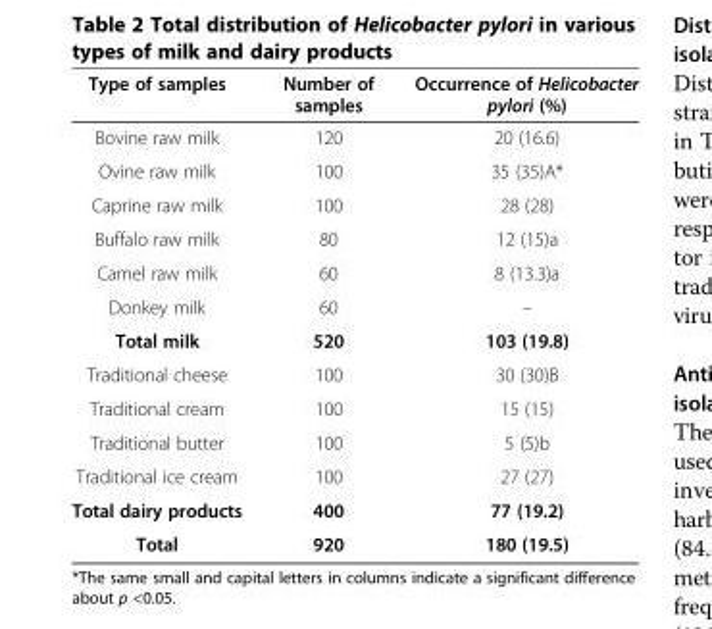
<table><thead><tr><td>Type of samples</td><td>Number of samples</td><td>Occurrence of Helicobacter pylori (%)</td></tr></thead><tbody><tr><td>Bovine raw milk</td><td>120</td><td>20 (16.6)</td></tr><tr><td>Ovine raw milk</td><td>100</td><td>35 (35)A*</td></tr><tr><td>Caprine raw milk</td><td>100</td><td>28 (28)</td></tr><tr><td>Buffalo raw milk</td><td>80</td><td>12 (15)a</td></tr><tr><td>Camel raw milk</td><td>60</td><td>8 (13.3)a</td></tr><tr><td>Donkey milk</td><td>60</td><td>–</td></tr><tr><td>Total milk</td><td>520</td><td>103 (19.8)</td></tr><tr><td>Traditional cheese</td><td>100</td><td>30 (30)B</td></tr><tr><td>Traditional cream</td><td>100</td><td>15 (15)</td></tr><tr><td>Traditional butter</td><td>100</td><td>5 (5)b</td></tr><tr><td>Traditional ice cream</td><td>100</td><td>27 (27)</td></tr><tr><td>Total dairy products</td><td>400</td><td>77 (19.2)</td></tr><tr><td>Total</td><td>920</td><td>180 (19.5)</td></tr></tbody></table>